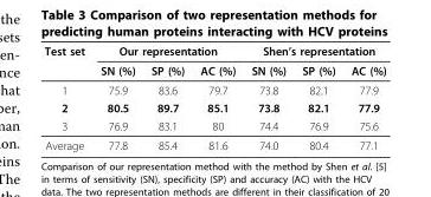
<table><thead><tr><td rowspan="2">Test set</td><td colspan="3">Our representation</td><td colspan="3">Shen’s representation</td></tr><tr><td>SN (%)</td><td>SP (%)</td><td>AC (%)</td><td>SN (%)</td><td>SP (%)</td><td>AC (%)</td></tr></thead><tbody><tr><td>1</td><td>75.9</td><td>83.6</td><td>79.7</td><td>73.8</td><td>82.1</td><td>77.9</td></tr><tr><td>2</td><td>80.5</td><td>89.7</td><td>85.1</td><td>73.8</td><td>82.1</td><td>77.9</td></tr><tr><td>3</td><td>76.9</td><td>83.1</td><td>80</td><td>74.4</td><td>76.9</td><td>75.6</td></tr><tr><td>Average</td><td>77.8</td><td>85.4</td><td>81.6</td><td>74.0</td><td>80.4</td><td>77.1</td></tr></tbody></table>